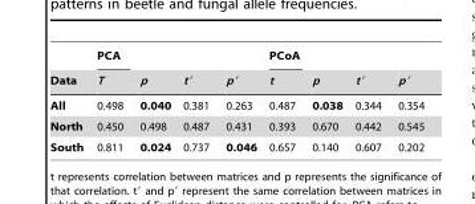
<table><thead><tr><td rowspan="2">Data</td><td rowspan="2">PCA T</td><td rowspan="2">p</td><td rowspan="2">t′</td><td rowspan="2">p′</td><td rowspan="2">PCoA t</td><td rowspan="2">p</td><td rowspan="2">t′</td><td rowspan="2">p′</td></tr><tr></tr></thead><tbody><tr><td>All</td><td>0.498</td><td>0.040</td><td>0.381</td><td>0.263</td><td>0.487</td><td>0.038</td><td>0.344</td><td>0.354</td></tr><tr><td>North</td><td>0.450</td><td>0.498</td><td>0.487</td><td>0.431</td><td>0.393</td><td>0.670</td><td>0.442</td><td>0.545</td></tr><tr><td>South</td><td>0.811</td><td>0.024</td><td>0.737</td><td>0.046</td><td>0.657</td><td>0.140</td><td>0.607</td><td>0.202</td></tr></tbody></table>